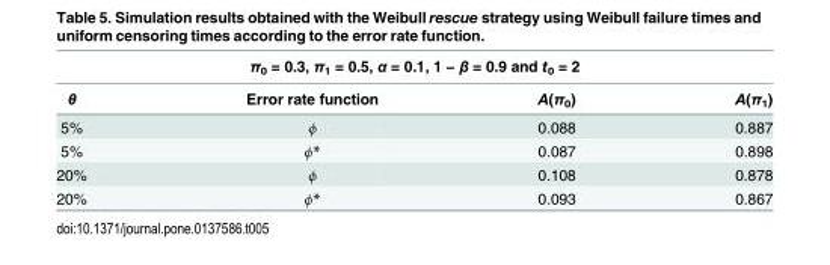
<table><thead><tr><td colspan="4">π<sub>0</sub> = 0.3, π<sub>1</sub> = 0.5, α = 0.1, 1 − β = 0.9 and t<sub>0</sub> = 2</td></tr><tr><td>θ</td><td>Error rate function</td><td>A(π<sub>0</sub>)</td><td>A(π<sub>1</sub>)</td></tr></thead><tbody><tr><td>5%</td><td>ϕ</td><td>0.088</td><td>0.887</td></tr><tr><td>5%</td><td>ϕ*</td><td>0.087</td><td>0.898</td></tr><tr><td>20%</td><td>ϕ</td><td>0.108</td><td>0.878</td></tr><tr><td>20%</td><td>ϕ*</td><td>0.093</td><td>0.867</td></tr></tbody></table>